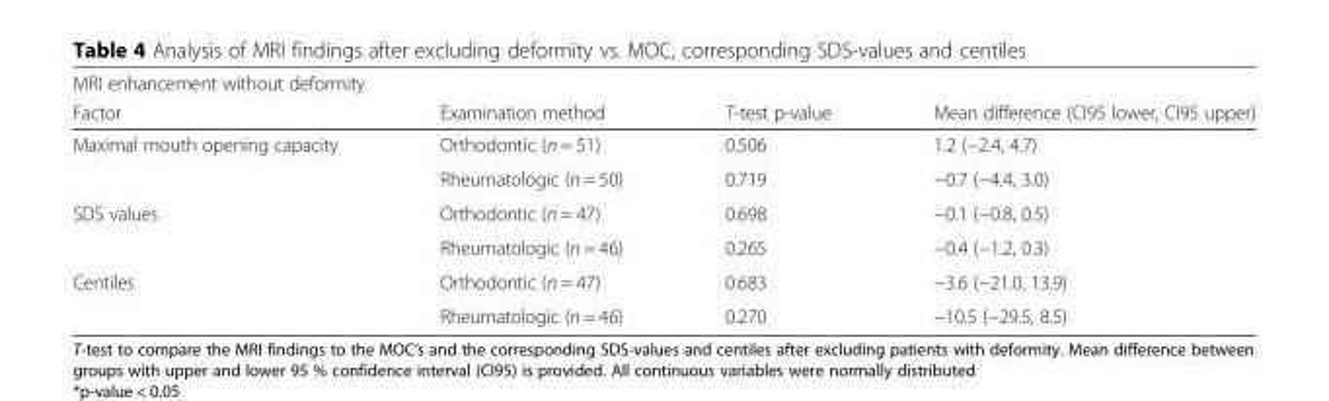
<table><thead><tr><td colspan="4">MRI enhancement without deformity</td></tr><tr><td>Factor</td><td>Examination method</td><td>T-test p-value</td><td>Mean difference (CI95 lower, CI95 upper)</td></tr></thead><tbody><tr><td rowspan="2">Maximal mouth opening capacity</td><td>Orthodontic (n = 51)</td><td>0.506</td><td>1.2 (−2.4, 4.7)</td></tr><tr><td>Rheumatologic (n = 50)</td><td>0.719</td><td>−0.7 (−4.4, 3.0)</td></tr><tr><td rowspan="2">SDS values</td><td>Orthodontic (n = 47)</td><td>0.698</td><td>−0.1 (−0.8, 0.5)</td></tr><tr><td>Rheumatologic (n = 46)</td><td>0.265</td><td>−0.4 (−1.2, 0.3)</td></tr><tr><td rowspan="2">Centiles</td><td>Orthodontic (n = 47)</td><td>0.683</td><td>−3.6 (−21.0, 13.9)</td></tr><tr><td>Rheumatologic (n = 46)</td><td>0.270</td><td>−10.5 (−29.5, 8.5)</td></tr></tbody></table>